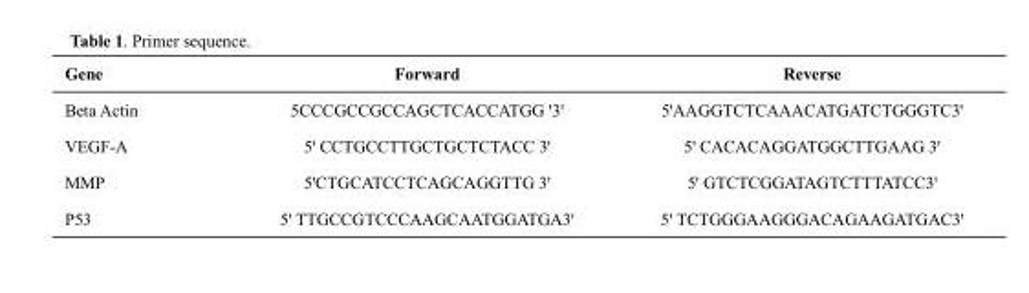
<table><thead><tr><td>Gene</td><td>Forward</td><td>Reverse</td></tr></thead><tbody><tr><td>Beta Actin</td><td>5CCCGCCGCCAGCTCACCATGG ꞌ3ꞌ</td><td>5ꞌAAGGTCTCAAACATGATCTGGGTC3ꞌ</td></tr><tr><td>VEGF-A</td><td>5ꞌ CCTGCCTTGCTGCTCTACC 3ꞌ</td><td>5ꞌ CACACAGGATGGCTTGAAG 3ꞌ</td></tr><tr><td>MMP</td><td>5ꞌCTGCATCCTCAGCAGGTTG 3ꞌ</td><td>5ꞌ GTCTCGGATAGTCTTTATCC3ꞌ</td></tr><tr><td>P53</td><td>5ꞌ TTGCCGTCCCAAGCAATGGATGA3ꞌ</td><td>5ꞌ TCTGGGAAGGGACAGAAGATGAC3ꞌ</td></tr></tbody></table>